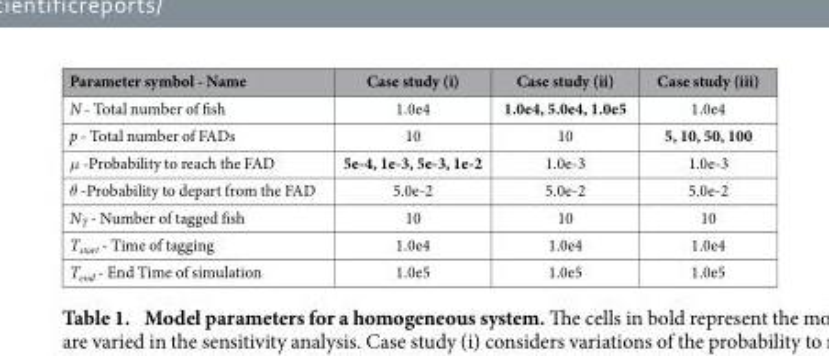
<table><thead><tr><td>Parameter symbol - Name</td><td>Case study (i)</td><td>Case study (ii)</td><td>Case study (iii)</td></tr></thead><tbody><tr><td>N - Total number of fish</td><td>1.0e4</td><td>1.0e4, 5.0e4, 1.0e5</td><td>1.0e4</td></tr><tr><td>p - Total number of FADs</td><td>10</td><td>10</td><td>5, 10, 50, 100</td></tr><tr><td>μ -Probability to reach the FAD</td><td>5e-4, 1e-3, 5e-3, 1e-2</td><td>1.0e-3</td><td>1.0e-3</td></tr><tr><td>θ -Probability to depart from the FAD</td><td>5.0e-2</td><td>5.0e-2</td><td>5.0e-2</td></tr><tr><td>N<sub>T</sub> - Number of tagged fish</td><td>10</td><td>10</td><td>10</td></tr><tr><td>T<sub>start</sub> - Time of tagging</td><td>1.0e4</td><td>1.0e4</td><td>1.0e4</td></tr><tr><td>T<sub>end</sub> - End Time of simulation</td><td>1.0e5</td><td>1.0e5</td><td>1.0e5</td></tr></tbody></table>